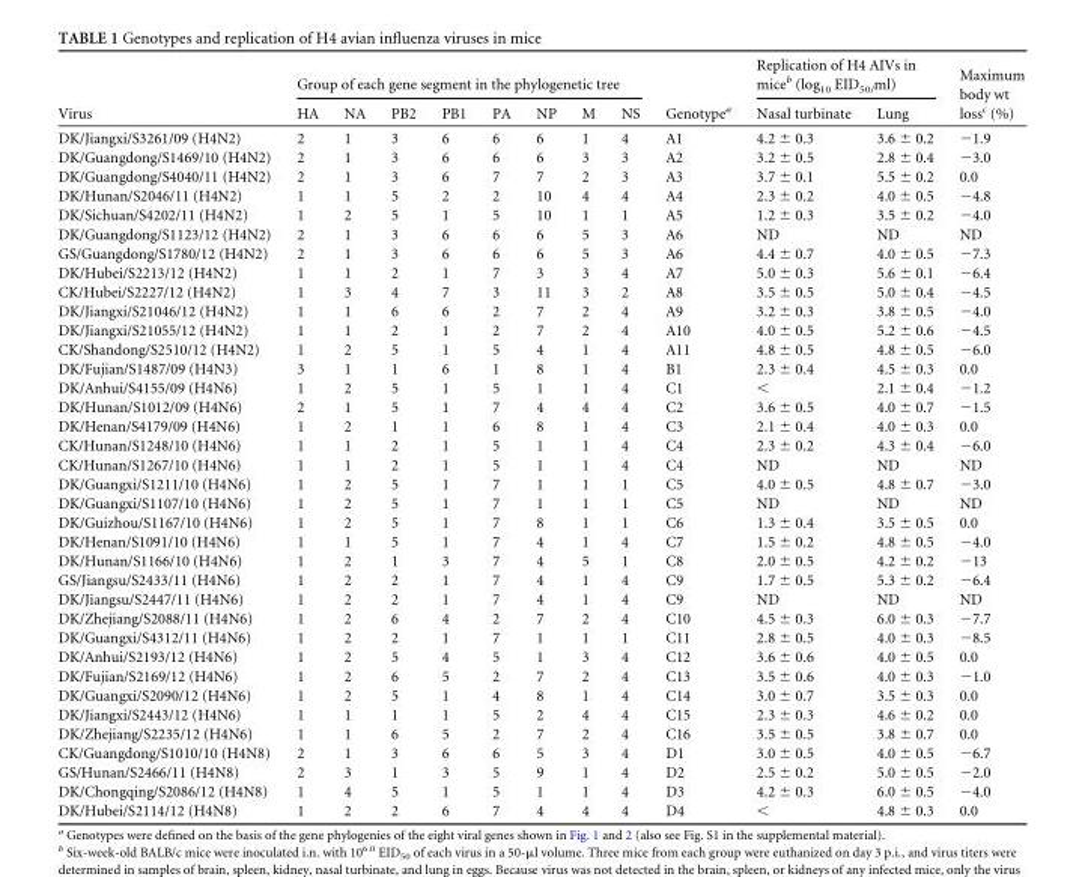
<table><thead><tr><td rowspan="2">Virus</td><td colspan="8">Group of each gene segment in the phylogenetic tree</td><td rowspan="2">Genotype<sup>a</sup></td><td colspan="2">Replication of H4 AIVs in mice<sup>b</sup> (log<sub>10</sub> EID<sub>50/</sub>ml)</td><td rowspan="2">Maximum body wt loss<sup>c</sup> (%)</td></tr><tr><td>HA</td><td>NA</td><td>PB2</td><td>PB1</td><td>PA</td><td>NP</td><td>M</td><td>NS</td><td>Nasal turbinate</td><td>Lung</td></tr></thead><tbody><tr><td>DK/Jiangxi/S3261/09 (H4N2)</td><td>2</td><td>1</td><td>3</td><td>6</td><td>6</td><td>6</td><td>1</td><td>4</td><td>A1</td><td>4.2 ± 0.3</td><td>3.6 ± 0.2</td><td>−1.9</td></tr><tr><td>DK/Guangdong/S1469/10 (H4N2)</td><td>2</td><td>1</td><td>3</td><td>6</td><td>6</td><td>6</td><td>3</td><td>3</td><td>A2</td><td>3.2 ± 0.5</td><td>2.8 ± 0.4</td><td>−3.0</td></tr><tr><td>DK/Guangdong/S4040/11 (H4N2)</td><td>2</td><td>1</td><td>3</td><td>6</td><td>7</td><td>7</td><td>2</td><td>3</td><td>A3</td><td>3.7 ± 0.1</td><td>5.5 ± 0.2</td><td>0.0</td></tr><tr><td>DK/Hunan/S2046/11 (H4N2)</td><td>1</td><td>1</td><td>5</td><td>2</td><td>2</td><td>10</td><td>4</td><td>4</td><td>A4</td><td>2.3 ± 0.2</td><td>4.0 ± 0.5</td><td>−4.8</td></tr><tr><td>DK/Sichuan/S4202/11 (H4N2)</td><td>1</td><td>2</td><td>5</td><td>1</td><td>5</td><td>10</td><td>1</td><td>1</td><td>A5</td><td>1.2 ± 0.3</td><td>3.5 ± 0.2</td><td>−4.0</td></tr><tr><td>DK/Guangdong/S1123/12 (H4N2)</td><td>2</td><td>1</td><td>3</td><td>6</td><td>6</td><td>6</td><td>5</td><td>3</td><td>A6</td><td>ND</td><td>ND</td><td>ND</td></tr><tr><td>GS/Guangdong/S1780/12 (H4N2)</td><td>2</td><td>1</td><td>3</td><td>6</td><td>6</td><td>6</td><td>5</td><td>3</td><td>A6</td><td>4.4 ± 0.7</td><td>4.0 ± 0.5</td><td>−7.3</td></tr><tr><td>DK/Hubei/S2213/12 (H4N2)</td><td>1</td><td>1</td><td>2</td><td>1</td><td>7</td><td>3</td><td>3</td><td>4</td><td>A7</td><td>5.0 ± 0.3</td><td>5.6 ± 0.1</td><td>−6.4</td></tr><tr><td>CK/Hubei/S2227/12 (H4N2)</td><td>1</td><td>3</td><td>4</td><td>7</td><td>3</td><td>11</td><td>3</td><td>2</td><td>A8</td><td>3.5 ± 0.5</td><td>5.0 ± 0.4</td><td>−4.5</td></tr><tr><td>DK/Jiangxi/S21046/12 (H4N2)</td><td>1</td><td>1</td><td>6</td><td>6</td><td>2</td><td>7</td><td>2</td><td>4</td><td>A9</td><td>3.2 ± 0.3</td><td>3.8 ± 0.5</td><td>−4.0</td></tr><tr><td>DK/Jiangxi/S21055/12 (H4N2)</td><td>1</td><td>1</td><td>2</td><td>1</td><td>2</td><td>7</td><td>2</td><td>4</td><td>A10</td><td>4.0 ± 0.5</td><td>5.2 ± 0.6</td><td>−4.5</td></tr><tr><td>CK/Shandong/S2510/12 (H4N2)</td><td>1</td><td>2</td><td>5</td><td>1</td><td>5</td><td>4</td><td>1</td><td>4</td><td>A11</td><td>4.8 ± 0.5</td><td>4.8 ± 0.5</td><td>−6.0</td></tr><tr><td>DK/Fujian/S1487/09 (H4N3)</td><td>3</td><td>1</td><td>1</td><td>6</td><td>1</td><td>8</td><td>1</td><td>4</td><td>B1</td><td>2.3 ± 0.4</td><td>4.5 ± 0.3</td><td>0.0</td></tr><tr><td>DK/Anhui/S4155/09 (H4N6)</td><td>1</td><td>2</td><td>5</td><td>1</td><td>5</td><td>1</td><td>1</td><td>4</td><td>C1</td><td>&lt;</td><td>2.1 ± 0.4</td><td>−1.2</td></tr><tr><td>DK/Hunan/S1012/09 (H4N6)</td><td>2</td><td>1</td><td>5</td><td>1</td><td>7</td><td>4</td><td>4</td><td>4</td><td>C2</td><td>3.6 ± 0.5</td><td>4.0 ± 0.7</td><td>−1.5</td></tr><tr><td>DK/Henan/S4179/09 (H4N6)</td><td>1</td><td>2</td><td>1</td><td>1</td><td>6</td><td>8</td><td>1</td><td>4</td><td>C3</td><td>2.1 ± 0.4</td><td>4.0 ± 0.3</td><td>0.0</td></tr><tr><td>CK/Hunan/S1248/10 (H4N6)</td><td>1</td><td>1</td><td>2</td><td>1</td><td>5</td><td>1</td><td>1</td><td>4</td><td>C4</td><td>2.3 ± 0.2</td><td>4.3 ± 0.4</td><td>−6.0</td></tr><tr><td>CK/Hunan/S1267/10 (H4N6)</td><td>1</td><td>1</td><td>2</td><td>1</td><td>5</td><td>1</td><td>1</td><td>4</td><td>C4</td><td>ND</td><td>ND</td><td>ND</td></tr><tr><td>DK/Guangxi/S1211/10 (H4N6)</td><td>1</td><td>2</td><td>5</td><td>1</td><td>7</td><td>1</td><td>1</td><td>1</td><td>C5</td><td>4.0 ± 0.5</td><td>4.8 ± 0.7</td><td>−3.0</td></tr><tr><td>DK/Guangxi/S1107/10 (H4N6)</td><td>1</td><td>2</td><td>5</td><td>1</td><td>7</td><td>1</td><td>1</td><td>1</td><td>C5</td><td>ND</td><td>ND</td><td>ND</td></tr><tr><td>DK/Guizhou/S1167/10 (H4N6)</td><td>1</td><td>2</td><td>5</td><td>1</td><td>7</td><td>8</td><td>1</td><td>1</td><td>C6</td><td>1.3 ± 0.4</td><td>3.5 ± 0.5</td><td>0.0</td></tr><tr><td>DK/Henan/S1091/10 (H4N6)</td><td>1</td><td>1</td><td>5</td><td>1</td><td>7</td><td>4</td><td>1</td><td>4</td><td>C7</td><td>1.5 ± 0.2</td><td>4.8 ± 0.5</td><td>−4.0</td></tr><tr><td>DK/Hunan/S1166/10 (H4N6)</td><td>1</td><td>2</td><td>1</td><td>3</td><td>7</td><td>4</td><td>5</td><td>1</td><td>C8</td><td>2.0 ± 0.5</td><td>4.2 ± 0.2</td><td>−13</td></tr><tr><td>GS/Jiangsu/S2433/11 (H4N6)</td><td>1</td><td>2</td><td>2</td><td>1</td><td>7</td><td>4</td><td>1</td><td>4</td><td>C9</td><td>1.7 ± 0.5</td><td>5.3 ± 0.2</td><td>−6.4</td></tr><tr><td>DK/Jiangsu/S2447/11 (H4N6)</td><td>1</td><td>2</td><td>2</td><td>1</td><td>7</td><td>4</td><td>1</td><td>4</td><td>C9</td><td>ND</td><td>ND</td><td>ND</td></tr><tr><td>DK/Zhejiang/S2088/11 (H4N6)</td><td>1</td><td>2</td><td>6</td><td>4</td><td>2</td><td>7</td><td>2</td><td>4</td><td>C10</td><td>4.5 ± 0.3</td><td>6.0 ± 0.3</td><td>−7.7</td></tr><tr><td>DK/Guangxi/S4312/11 (H4N6)</td><td>1</td><td>2</td><td>2</td><td>1</td><td>7</td><td>1</td><td>1</td><td>1</td><td>C11</td><td>2.8 ± 0.5</td><td>4.0 ± 0.3</td><td>−8.5</td></tr><tr><td>DK/Anhui/S2193/12 (H4N6)</td><td>1</td><td>2</td><td>5</td><td>4</td><td>5</td><td>1</td><td>3</td><td>4</td><td>C12</td><td>3.6 ± 0.6</td><td>4.0 ± 0.5</td><td>0.0</td></tr><tr><td>DK/Fujian/S2169/12 (H4N6)</td><td>1</td><td>2</td><td>6</td><td>5</td><td>2</td><td>7</td><td>2</td><td>4</td><td>C13</td><td>3.5 ± 0.6</td><td>4.0 ± 0.3</td><td>−1.0</td></tr><tr><td>DK/Guangxi/S2090/12 (H4N6)</td><td>1</td><td>2</td><td>5</td><td>1</td><td>4</td><td>8</td><td>1</td><td>4</td><td>C14</td><td>3.0 ± 0.7</td><td>3.5 ± 0.3</td><td>0.0</td></tr><tr><td>DK/Jiangxi/S2443/12 (H4N6)</td><td>1</td><td>1</td><td>1</td><td>1</td><td>5</td><td>2</td><td>4</td><td>4</td><td>C15</td><td>2.3 ± 0.3</td><td>4.6 ± 0.2</td><td>0.0</td></tr><tr><td>DK/Zhejiang/S2235/12 (H4N6)</td><td>1</td><td>1</td><td>6</td><td>5</td><td>2</td><td>7</td><td>2</td><td>4</td><td>C16</td><td>3.5 ± 0.5</td><td>3.8 ± 0.7</td><td>0.0</td></tr><tr><td>CK/Guangdong/S1010/10 (H4N8)</td><td>2</td><td>1</td><td>3</td><td>6</td><td>6</td><td>5</td><td>3</td><td>4</td><td>D1</td><td>3.0 ± 0.5</td><td>4.0 ± 0.5</td><td>−6.7</td></tr><tr><td>GS/Hunan/S2466/11 (H4N8)</td><td>2</td><td>3</td><td>1</td><td>3</td><td>5</td><td>9</td><td>1</td><td>4</td><td>D2</td><td>2.5 ± 0.2</td><td>5.0 ± 0.5</td><td>−2.0</td></tr><tr><td>DK/Chongqing/S2086/12 (H4N8)</td><td>1</td><td>4</td><td>5</td><td>1</td><td>5</td><td>1</td><td>1</td><td>4</td><td>D3</td><td>4.2 ± 0.3</td><td>6.0 ± 0.5</td><td>−4.0</td></tr><tr><td>DK/Hubei/S2114/12 (H4N8)</td><td>1</td><td>2</td><td>2</td><td>6</td><td>7</td><td>4</td><td>4</td><td>4</td><td>D4</td><td>&lt;</td><td>4.8 ± 0.3</td><td>0.0</td></tr></tbody></table>